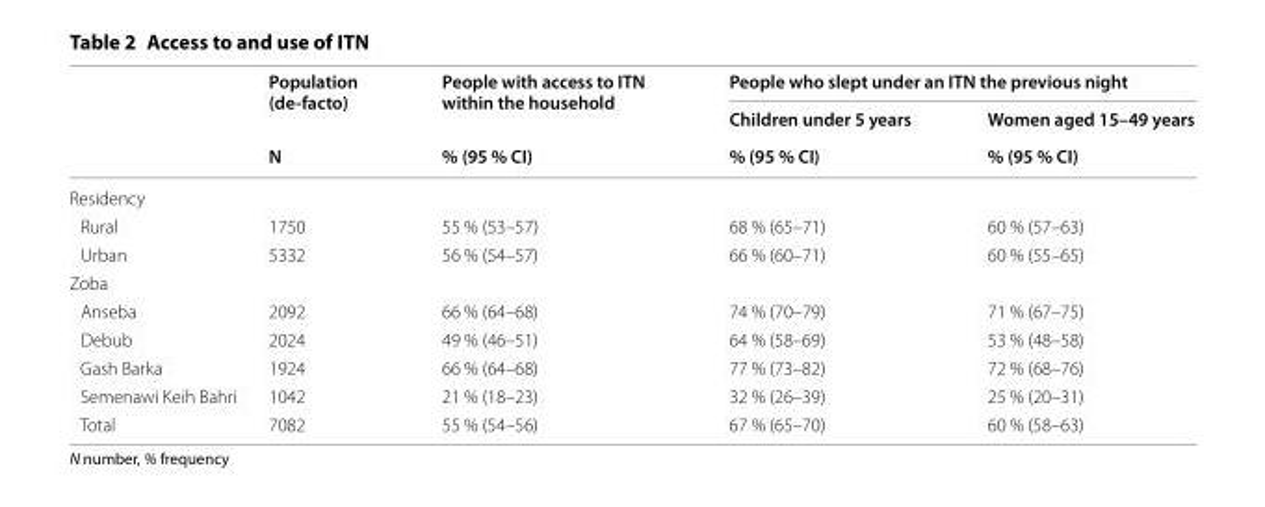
<table><thead><tr><td rowspan="3"></td><td rowspan="3">Population (de-facto) N</td><td rowspan="3">People with access to ITN within the household % (95 % CI)</td><td colspan="2">People who slept under an ITN the previous night</td></tr><tr><td rowspan="2">Children under 5 years % (95 % CI)</td><td rowspan="2">Women aged 15–49 years % (95 % CI)</td></tr><tr></tr></thead><tbody><tr><td colspan="5">Residency</td></tr><tr><td>Rural</td><td>1750</td><td>55 % (53–57)</td><td>68 % (65–71)</td><td>60 % (57–63)</td></tr><tr><td>Urban</td><td>5332</td><td>56 % (54–57)</td><td>66 % (60–71)</td><td>60 % (55–65)</td></tr><tr><td colspan="5">Zoba</td></tr><tr><td>Anseba</td><td>2092</td><td>66 % (64–68)</td><td>74 % (70–79)</td><td>71 % (67–75)</td></tr><tr><td>Debub</td><td>2024</td><td>49 % (46–51)</td><td>64 % (58–69)</td><td>53 % (48–58)</td></tr><tr><td>Gash Barka</td><td>1924</td><td>66 % (64–68)</td><td>77 % (73–82)</td><td>72 % (68–76)</td></tr><tr><td>Semenawi Keih Bahri</td><td>1042</td><td>21 % (18–23)</td><td>32 % (26–39)</td><td>25 % (20–31)</td></tr><tr><td>Total</td><td>7082</td><td>55 % (54–56)</td><td>67 % (65–70)</td><td>60 % (58–63)</td></tr></tbody></table>